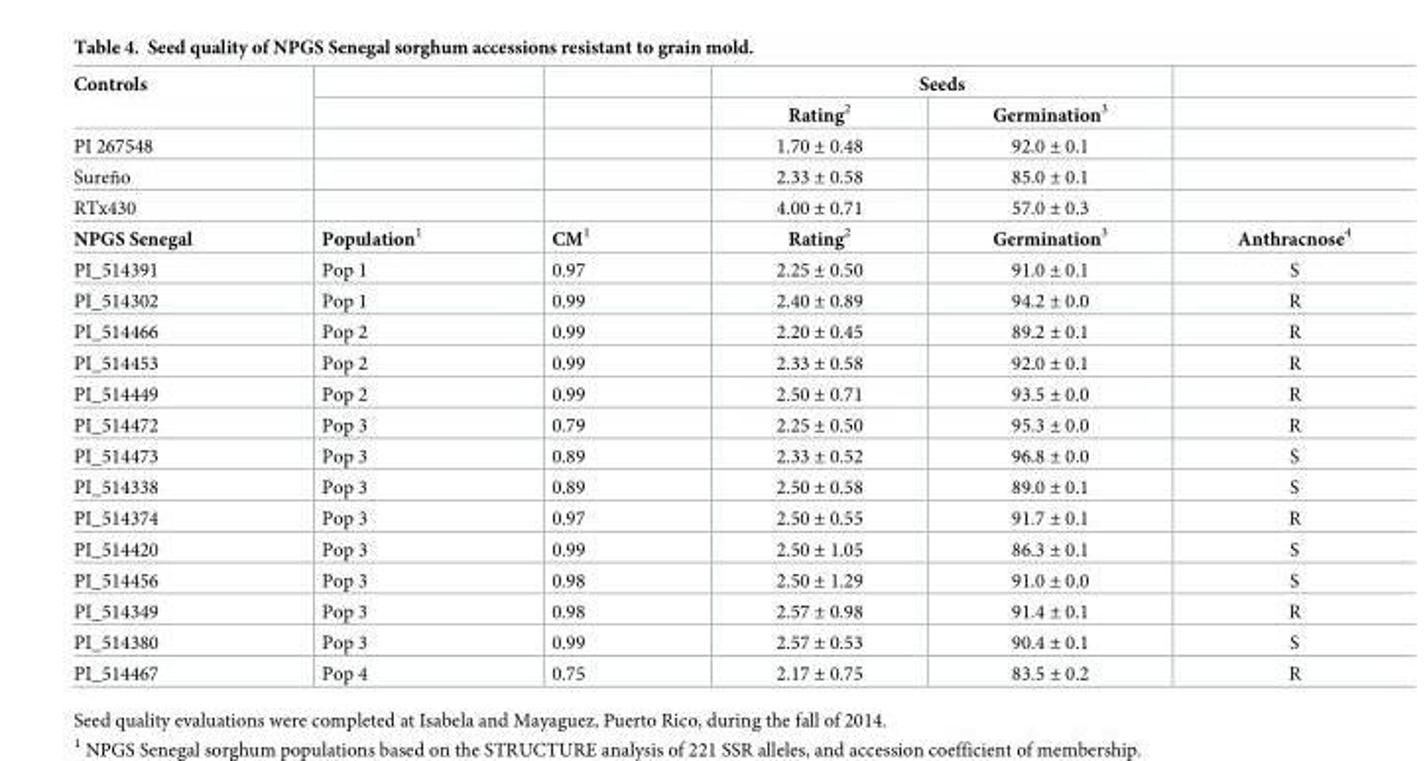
<table><tbody><tr><td rowspan="2">Controls</td><td></td><td></td><td colspan="2">Seeds</td><td></td></tr><tr><td></td><td></td><td>Rating<sup>2</sup></td><td>Germination<sup>3</sup></td><td></td></tr><tr><td>PI 267548</td><td></td><td></td><td>1.70 ± 0.48</td><td>92.0 ± 0.1</td><td></td></tr><tr><td>Sureño</td><td></td><td></td><td>2.33 ± 0.58</td><td>85.0 ± 0.1</td><td></td></tr><tr><td>RTx430</td><td></td><td></td><td>4.00 ± 0.71</td><td>57.0 ± 0.3</td><td></td></tr><tr><td>NPGS Senegal</td><td>Population<sup>1</sup></td><td>CM<sup>1</sup></td><td>Rating<sup>2</sup></td><td>Germination<sup>3</sup></td><td>Anthracnose<sup>4</sup></td></tr><tr><td>PI_514391</td><td>Pop 1</td><td>0.97</td><td>2.25 ± 0.50</td><td>91.0 ± 0.1</td><td>S</td></tr><tr><td>PI_514302</td><td>Pop 1</td><td>0.99</td><td>2.40 ± 0.89</td><td>94.2 ± 0.0</td><td>R</td></tr><tr><td>PI_514466</td><td>Pop 2</td><td>0.99</td><td>2.20 ± 0.45</td><td>89.2 ± 0.1</td><td>R</td></tr><tr><td>PI_514453</td><td>Pop 2</td><td>0.99</td><td>2.33 ± 0.58</td><td>92.0 ± 0.1</td><td>R</td></tr><tr><td>PI_514449</td><td>Pop 2</td><td>0.99</td><td>2.50 ± 0.71</td><td>93.5 ± 0.0</td><td>R</td></tr><tr><td>PI_514472</td><td>Pop 3</td><td>0.79</td><td>2.25 ± 0.50</td><td>95.3 ± 0.0</td><td>R</td></tr><tr><td>PI_514473</td><td>Pop 3</td><td>0.89</td><td>2.33 ± 0.52</td><td>96.8 ± 0.0</td><td>S</td></tr><tr><td>PI_514338</td><td>Pop 3</td><td>0.89</td><td>2.50 ± 0.58</td><td>89.0 ± 0.1</td><td>S</td></tr><tr><td>PI_514374</td><td>Pop 3</td><td>0.97</td><td>2.50 ± 0.55</td><td>91.7 ± 0.1</td><td>R</td></tr><tr><td>PI_514420</td><td>Pop 3</td><td>0.99</td><td>2.50 ± 1.05</td><td>86.3 ± 0.1</td><td>S</td></tr><tr><td>PI_514456</td><td>Pop 3</td><td>0.98</td><td>2.50 ± 1.29</td><td>91.0 ± 0.0</td><td>S</td></tr><tr><td>PI_514349</td><td>Pop 3</td><td>0.98</td><td>2.57 ± 0.98</td><td>91.4 ± 0.1</td><td>R</td></tr><tr><td>PI_514380</td><td>Pop 3</td><td>0.99</td><td>2.57 ± 0.53</td><td>90.4 ± 0.1</td><td>S</td></tr><tr><td>PI_514467</td><td>Pop 4</td><td>0.75</td><td>2.17 ± 0.75</td><td>83.5 ± 0.2</td><td>R</td></tr></tbody></table>